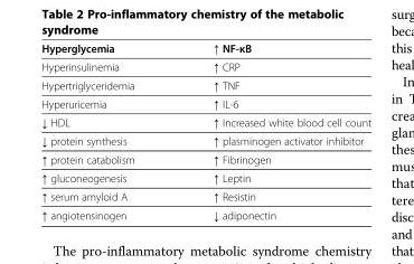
<table><thead><tr><td>Hyperglycemia</td><td>↑ NF-κB</td></tr></thead><tbody><tr><td>Hyperinsulinemia</td><td>↑ CRP</td></tr><tr><td>Hypertriglyceridemia</td><td>↑ TNF</td></tr><tr><td>Hyperuricemia</td><td>↑ IL-6</td></tr><tr><td>↓ HDL</td><td>↑ Increased white blood cell count</td></tr><tr><td>↓ protein synthesis</td><td>↑ plasminogen activator inhibitor</td></tr><tr><td>↑ protein catabolism</td><td>↑ Fibrinogen</td></tr><tr><td>↑ gluconeogenesis</td><td>↑ Leptin</td></tr><tr><td>↑ serum amyloid A</td><td>↑ Resistin</td></tr><tr><td>↑ angiotensinogen</td><td>↓ adiponectin</td></tr></tbody></table>